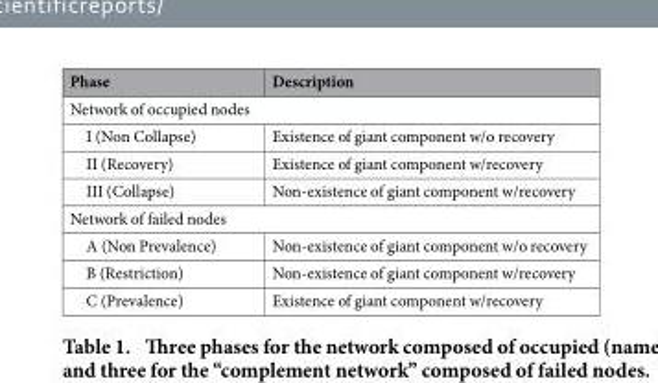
<table><thead><tr><td>Phase</td><td>Description</td></tr></thead><tbody><tr><td colspan="2">Network of occupied nodes</td></tr><tr><td>I (Non Collapse)</td><td>Existence of giant component w/o recovery</td></tr><tr><td>II (Recovery)</td><td>Existence of giant component w/recovery</td></tr><tr><td>III (Collapse)</td><td>Non-existence of giant component w/recovery</td></tr><tr><td colspan="2">Network of failed nodes</td></tr><tr><td>A (Non Prevalence)</td><td>Non-existence of giant component w/o recovery</td></tr><tr><td>B (Restriction)</td><td>Non-existence of giant component w/recovery</td></tr><tr><td>C (Prevalence)</td><td>Existence of giant component w/recovery</td></tr></tbody></table>